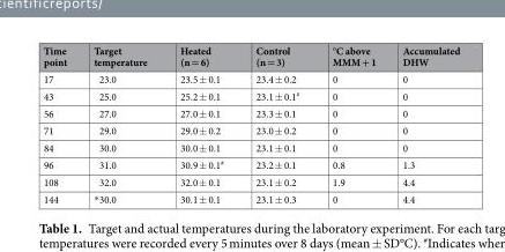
<table><thead><tr><td>Time point</td><td>Target temperature</td><td>Heated (n = 6)</td><td>Control (n = 3)</td><td>°C above MMM + 1</td><td>Accumulated DHW</td></tr></thead><tbody><tr><td>17</td><td>23.0</td><td>23.5 ± 0.1</td><td>23.4 ± 0.2</td><td>0</td><td>0</td></tr><tr><td>43</td><td>25.0</td><td>25.2 ± 0.1</td><td>23.1 ± 0.1<sup>#</sup></td><td>0</td><td>0</td></tr><tr><td>56</td><td>27.0</td><td>27.0 ± 0.1</td><td>23.3 ± 0.1</td><td>0</td><td>0</td></tr><tr><td>71</td><td>29.0</td><td>29.0 ± 0.2</td><td>23.0 ± 0.2</td><td>0</td><td>0</td></tr><tr><td>84</td><td>30.0</td><td>30.0 ± 0.1</td><td>23.1 ± 0.1</td><td>0</td><td>0</td></tr><tr><td>96</td><td>31.0</td><td>30.9 ± 0.1<sup>#</sup></td><td>23.2 ± 0.1</td><td>0.8</td><td>1.3</td></tr><tr><td>108</td><td>32.0</td><td>32.0 ± 0.1</td><td>23.1 ± 0.2</td><td>1.9</td><td>4.4</td></tr><tr><td>144</td><td>*30.0</td><td>30.1 ± 0.1</td><td>23.1 ± 0.3</td><td>0</td><td>4.4</td></tr></tbody></table>